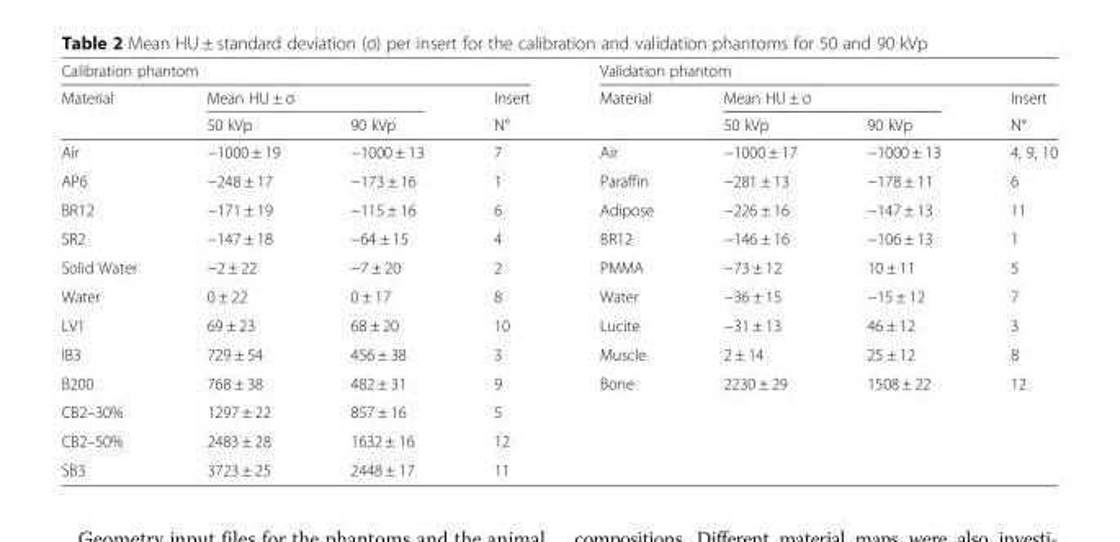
<table><thead><tr><td colspan="4">Calibration phantom</td><td colspan="4">Validation phantom</td></tr><tr><td rowspan="2">Material</td><td colspan="2">Mean HU ± σ</td><td rowspan="2">Insert N°</td><td rowspan="2">Material</td><td colspan="2">Mean HU ± σ</td><td rowspan="2">Insert N°</td></tr><tr><td>50 kVp</td><td>90 kVp</td><td>50 kVp</td><td>90 kVp</td></tr></thead><tbody><tr><td>Air</td><td>−1000 ± 19</td><td>−1000 ± 13</td><td>7</td><td>Air</td><td>−1000 ± 17</td><td>−1000 ± 13</td><td>4, 9, 10</td></tr><tr><td>AP6</td><td>−248 ± 17</td><td>−173 ± 16</td><td>1</td><td>Paraffin</td><td>−281 ± 13</td><td>−178 ± 11</td><td>6</td></tr><tr><td>BR12</td><td>−171 ± 19</td><td>−115 ± 16</td><td>6</td><td>Adipose</td><td>−226 ± 16</td><td>−147 ± 13</td><td>11</td></tr><tr><td>SR2</td><td>−147 ± 18</td><td>−64 ± 15</td><td>4</td><td>BR12</td><td>−146 ± 16</td><td>−106 ± 13</td><td>1</td></tr><tr><td>Solid Water</td><td>−2 ± 22</td><td>−7 ± 20</td><td>2</td><td>PMMA</td><td>−73 ± 12</td><td>10 ± 11</td><td>5</td></tr><tr><td>Water</td><td>0 ± 22</td><td>0 ± 17</td><td>8</td><td>Water</td><td>−36 ± 15</td><td>−15 ± 12</td><td>7</td></tr><tr><td>LV1</td><td>69 ± 23</td><td>68 ± 20</td><td>10</td><td>Lucite</td><td>−31 ± 13</td><td>46 ± 12</td><td>3</td></tr><tr><td>IB3</td><td>729 ± 54</td><td>456 ± 38</td><td>3</td><td>Muscle</td><td>2 ± 14</td><td>25 ± 12</td><td>8</td></tr><tr><td>B200</td><td>768 ± 38</td><td>482 ± 31</td><td>9</td><td>Bone</td><td>2230 ± 29</td><td>1508 ± 22</td><td>12</td></tr><tr><td>CB2–30%</td><td>1297 ± 22</td><td>857 ± 16</td><td>5</td><td></td><td></td><td></td><td></td></tr><tr><td>CB2–50%</td><td>2483 ± 28</td><td>1632 ± 16</td><td>12</td><td></td><td></td><td></td><td></td></tr><tr><td>SB3</td><td>3723 ± 25</td><td>2448 ± 17</td><td>11</td><td></td><td></td><td></td><td></td></tr></tbody></table>